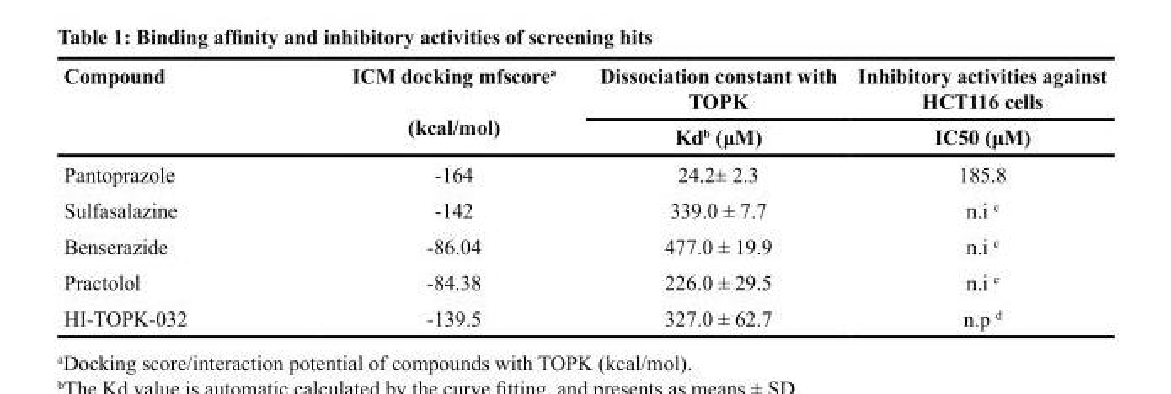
<table><thead><tr><td rowspan="2">Compound</td><td rowspan="2">ICM docking mfscore<sup>a</sup> (kcal/mol)</td><td rowspan="2">Dissociation constant with TOPK Kd<sup>b</sup> (μM)</td><td rowspan="2">Inhibitory activities against HCT116 cells IC50 (μM)</td></tr><tr></tr></thead><tbody><tr><td>Pantoprazole</td><td>-164</td><td>24.2± 2.3</td><td>185.8</td></tr><tr><td>Sulfasalazine</td><td>-142</td><td>339.0 ± 7.7</td><td>n.i <sup>c</sup></td></tr><tr><td>Benserazide</td><td>-86.04</td><td>477.0 ± 19.9</td><td>n.i <sup>c</sup></td></tr><tr><td>Practolol</td><td>-84.38</td><td>226.0 ± 29.5</td><td>n.i <sup>c</sup></td></tr><tr><td>HI-TOPK-032</td><td>-139.5</td><td>327.0 ± 62.7</td><td>n.p <sup>d</sup></td></tr></tbody></table>